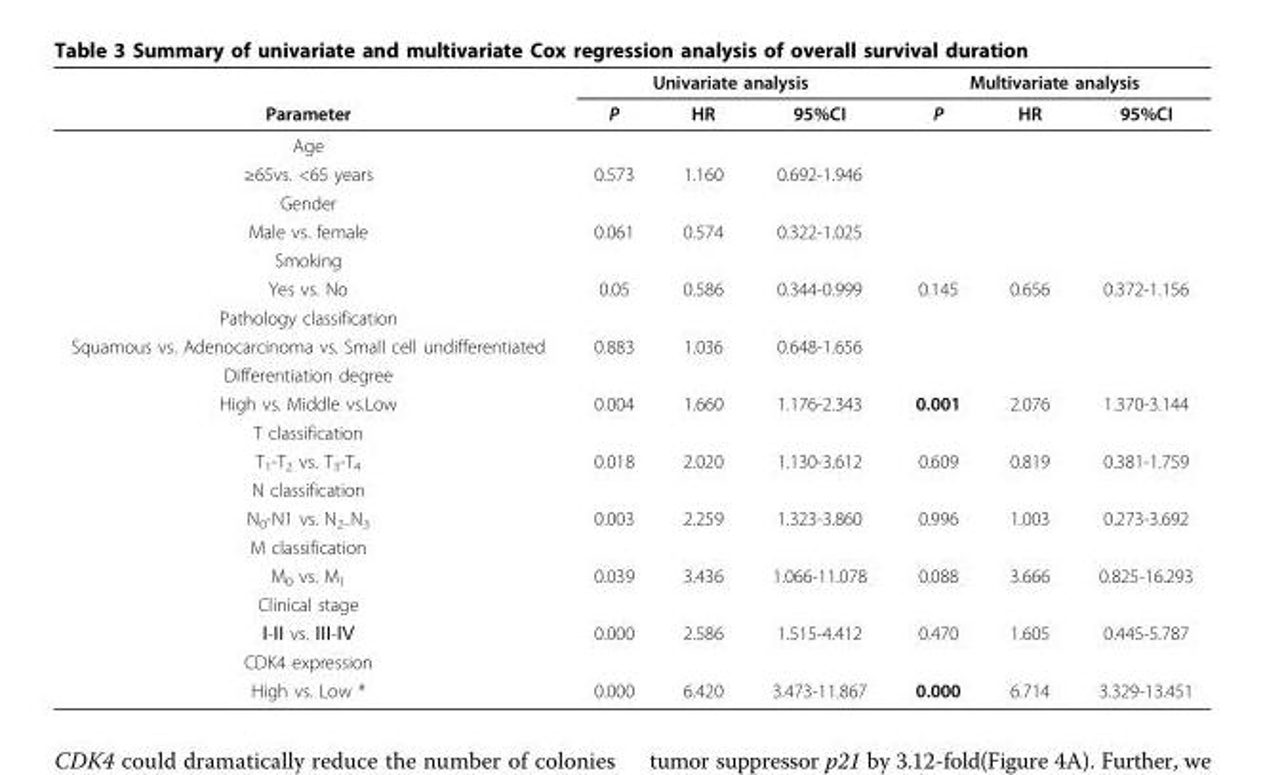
<table><thead><tr><td rowspan="2">Parameter</td><td colspan="3">Univariate analysis</td><td colspan="3">Multivariate analysis</td></tr><tr><td>P</td><td>HR</td><td>95%CI</td><td>P</td><td>HR</td><td>95%CI</td></tr></thead><tbody><tr><td colspan="7">Age</td></tr><tr><td>≥65vs. &lt;65 years</td><td>0.573</td><td>1.160</td><td>0.692-1.946</td><td></td><td></td><td></td></tr><tr><td colspan="7">Gender</td></tr><tr><td>Male vs. female</td><td>0.061</td><td>0.574</td><td>0.322-1.025</td><td></td><td></td><td></td></tr><tr><td colspan="7">Smoking</td></tr><tr><td>Yes vs. No</td><td>0.05</td><td>0.586</td><td>0.344-0.999</td><td>0.145</td><td>0.656</td><td>0.372-1.156</td></tr><tr><td colspan="7">Pathology classification</td></tr><tr><td>Squamous vs. Adenocarcinoma vs. Small cell undifferentiated</td><td>0.883</td><td>1.036</td><td>0.648-1.656</td><td></td><td></td><td></td></tr><tr><td colspan="7">Differentiation degree</td></tr><tr><td>High vs. Middle vs.Low</td><td>0.004</td><td>1.660</td><td>1.176-2.343</td><td>0.001</td><td>2.076</td><td>1.370-3.144</td></tr><tr><td colspan="7">T classification</td></tr><tr><td>T<sub>1</sub>-T<sub>2</sub> vs. T<sub>3</sub>-T<sub>4</sub></td><td>0.018</td><td>2.020</td><td>1.130-3.612</td><td>0.609</td><td>0.819</td><td>0.381-1.759</td></tr><tr><td colspan="7">N classification</td></tr><tr><td>N0-N1 vs. N2–N3</td><td>0.003</td><td>2.259</td><td>1.323-3.860</td><td>0.996</td><td>1.003</td><td>0.273-3.692</td></tr><tr><td colspan="7">M classification</td></tr><tr><td>M<sub>0</sub> vs. M<sub>1</sub></td><td>0.039</td><td>3.436</td><td>1.066-11.078</td><td>0.088</td><td>3.666</td><td>0.825-16.293</td></tr><tr><td colspan="7">Clinical stage</td></tr><tr><td>Ⅰ-Ⅱ vs. Ⅲ-Ⅳ</td><td>0.000</td><td>2.586</td><td>1.515-4.412</td><td>0.470</td><td>1.605</td><td>0.445-5.787</td></tr><tr><td colspan="7">CDK4 expression</td></tr><tr><td>High vs. Low *</td><td>0.000</td><td>6.420</td><td>3.473-11.867</td><td>0.000</td><td>6.714</td><td>3.329-13.451</td></tr></tbody></table>